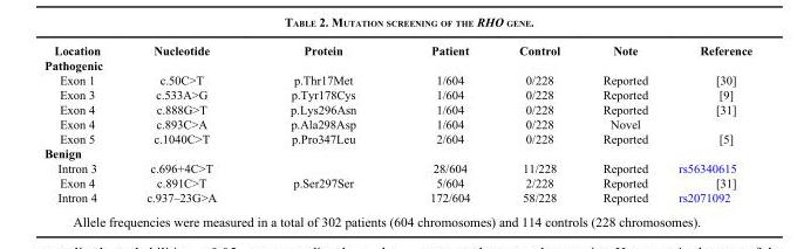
<table><thead><tr><td>Location</td><td>Nucleotide</td><td>Protein</td><td>Patient</td><td>Control</td><td>Note</td><td>Reference</td></tr></thead><tbody><tr><td colspan="7">Pathogenic</td></tr><tr><td>Exon 1</td><td>c.50C&gt;T</td><td>p.Thr17Met</td><td>1/604</td><td>0/228</td><td>Reported</td><td>[30]</td></tr><tr><td>Exon 3</td><td>c.533A&gt;G</td><td>p.Tyr178Cys</td><td>1/604</td><td>0/228</td><td>Reported</td><td>[9]</td></tr><tr><td>Exon 4</td><td>c.888G&gt;T</td><td>p.Lys296Asn</td><td>1/604</td><td>0/228</td><td>Reported</td><td>[31]</td></tr><tr><td>Exon 4</td><td>c.893C&gt;A</td><td>p.Ala298Asp</td><td>1/604</td><td>0/228</td><td>Novel</td><td></td></tr><tr><td>Exon 5</td><td>c.1040C&gt;T</td><td>p.Pro347Leu</td><td>2/604</td><td>0/228</td><td>Reported</td><td>[5]</td></tr><tr><td colspan="7">Benign</td></tr><tr><td>Intron 3</td><td>c.696+4C&gt;T</td><td></td><td>28/604</td><td>11/228</td><td>Reported</td><td>rs56340615</td></tr><tr><td>Exon 4</td><td>c.891C&gt;T</td><td>p.Ser297Ser</td><td>5/604</td><td>2/228</td><td>Reported</td><td>[31]</td></tr><tr><td>Intron 4</td><td>c.937–23G&gt;A</td><td></td><td>172/604</td><td>58/228</td><td>Reported</td><td>rs2071092</td></tr></tbody></table>